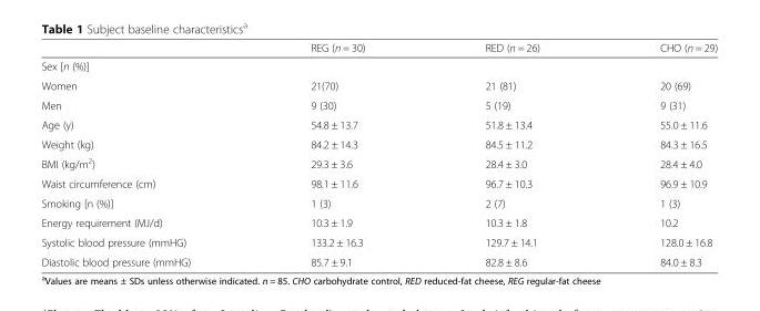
<table><thead><tr><td></td><td>REG (n = 30)</td><td>RED (n = 26)</td><td>CHO (n = 29)</td></tr></thead><tbody><tr><td colspan="4">Sex [n (%)]</td></tr><tr><td>Women</td><td>21(70)</td><td>21 (81)</td><td>20 (69)</td></tr><tr><td>Men</td><td>9 (30)</td><td>5 (19)</td><td>9 (31)</td></tr><tr><td>Age (y)</td><td>54.8 ± 13.7</td><td>51.8 ± 13.4</td><td>55.0 ± 11.6</td></tr><tr><td>Weight (kg)</td><td>84.2 ± 14.3</td><td>84.5 ± 11.2</td><td>84.3 ± 16.5</td></tr><tr><td>BMI (kg/m<sup>2</sup>)</td><td>29.3 ± 3.6</td><td>28.4 ± 3.0</td><td>28.4 ± 4.0</td></tr><tr><td>Waist circumference (cm)</td><td>98.1 ± 11.6</td><td>96.7 ± 10.3</td><td>96.9 ± 10.9</td></tr><tr><td>Smoking [n (%)]</td><td>1 (3)</td><td>2 (7)</td><td>1 (3)</td></tr><tr><td>Energy requirement (MJ/d)</td><td>10.3 ± 1.9</td><td>10.3 ± 1.8</td><td>10.2</td></tr><tr><td>Systolic blood pressure (mmHG)</td><td>133.2 ± 16.3</td><td>129.7 ± 14.1</td><td>128.0 ± 16.8</td></tr><tr><td>Diastolic blood pressure (mmHG)</td><td>85.7 ± 9.1</td><td>82.8 ± 8.6</td><td>84.0 ± 8.3</td></tr></tbody></table>